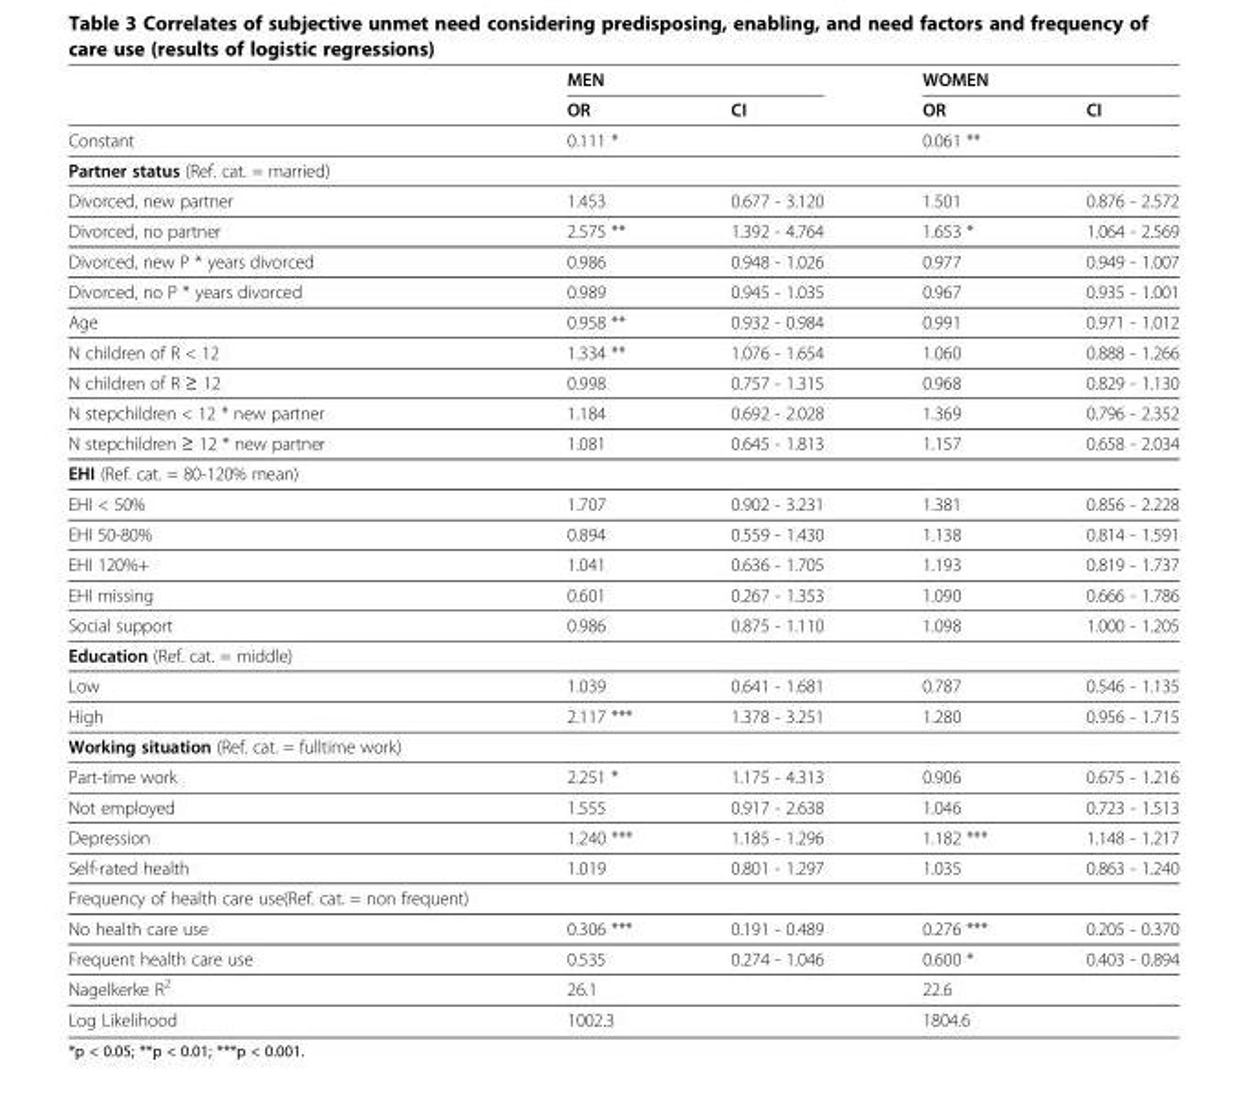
<table><thead><tr><td rowspan="2"></td><td colspan="2">MEN</td><td colspan="2">WOMEN</td></tr><tr><td>OR</td><td>CI</td><td>OR</td><td>CI</td></tr></thead><tbody><tr><td>Constant</td><td>0.111 *</td><td></td><td>0.061 **</td><td></td></tr><tr><td colspan="5">Partner status (Ref. cat. = married)</td></tr><tr><td>Divorced, new partner</td><td>1.453</td><td>0.677 - 3.120</td><td>1.501</td><td>0.876 - 2.572</td></tr><tr><td>Divorced, no partner</td><td>2.575 **</td><td>1.392 - 4.764</td><td>1.653 *</td><td>1.064 - 2.569</td></tr><tr><td>Divorced, new P * years divorced</td><td>0.986</td><td>0.948 - 1.026</td><td>0.977</td><td>0.949 - 1.007</td></tr><tr><td>Divorced, no P * years divorced</td><td>0.989</td><td>0.945 - 1.035</td><td>0.967</td><td>0.935 - 1.001</td></tr><tr><td>Age</td><td>0.958 **</td><td>0.932 - 0.984</td><td>0.991</td><td>0.971 - 1.012</td></tr><tr><td>N children of R &lt; 12</td><td>1.334 **</td><td>1.076 - 1.654</td><td>1.060</td><td>0.888 - 1.266</td></tr><tr><td>N children of R ≥ 12</td><td>0.998</td><td>0.757 - 1.315</td><td>0.968</td><td>0.829 - 1.130</td></tr><tr><td>N stepchildren &lt; 12 * new partner</td><td>1.184</td><td>0.692 - 2.028</td><td>1.369</td><td>0.796 - 2.352</td></tr><tr><td>N stepchildren ≥ 12 * new partner</td><td>1.081</td><td>0.645 - 1.813</td><td>1.157</td><td>0.658 - 2.034</td></tr><tr><td colspan="5">EHI (Ref. cat. = 80-120% mean)</td></tr><tr><td>EHI &lt; 50%</td><td>1.707</td><td>0.902 - 3.231</td><td>1.381</td><td>0.856 - 2.228</td></tr><tr><td>EHI 50-80%</td><td>0.894</td><td>0.559 - 1.430</td><td>1.138</td><td>0.814 - 1.591</td></tr><tr><td>EHI 120%+</td><td>1.041</td><td>0.636 - 1.705</td><td>1.193</td><td>0.819 - 1.737</td></tr><tr><td>EHI missing</td><td>0.601</td><td>0.267 - 1.353</td><td>1.090</td><td>0.666 - 1.786</td></tr><tr><td>Social support</td><td>0.986</td><td>0.875 - 1.110</td><td>1.098</td><td>1.000 - 1.205</td></tr><tr><td colspan="5">Education (Ref. cat. = middle)</td></tr><tr><td>Low</td><td>1.039</td><td>0.641 - 1.681</td><td>0.787</td><td>0.546 - 1.135</td></tr><tr><td>High</td><td>2.117 ***</td><td>1.378 - 3.251</td><td>1.280</td><td>0.956 - 1.715</td></tr><tr><td colspan="5">Working situation (Ref. cat. = fulltime work)</td></tr><tr><td>Part-time work</td><td>2.251 *</td><td>1.175 - 4.313</td><td>0.906</td><td>0.675 - 1.216</td></tr><tr><td>Not employed</td><td>1.555</td><td>0.917 - 2.638</td><td>1.046</td><td>0.723 - 1.513</td></tr><tr><td>Depression</td><td>1.240 ***</td><td>1.185 - 1.296</td><td>1.182 ***</td><td>1.148 - 1.217</td></tr><tr><td>Self-rated health</td><td>1.019</td><td>0.801 - 1.297</td><td>1.035</td><td>0.863 - 1.240</td></tr><tr><td colspan="5">Frequency of health care use(Ref. cat. = non frequent)</td></tr><tr><td>No health care use</td><td>0.306 ***</td><td>0.191 - 0.489</td><td>0.276 ***</td><td>0.205 - 0.370</td></tr><tr><td>Frequent health care use</td><td>0.535</td><td>0.274 - 1.046</td><td>0.600 *</td><td>0.403 - 0.894</td></tr><tr><td>Nagelkerke R<sup>2</sup></td><td>26.1</td><td></td><td>22.6</td><td></td></tr><tr><td>Log Likelihood</td><td>1002.3</td><td></td><td>1804.6</td><td></td></tr></tbody></table>